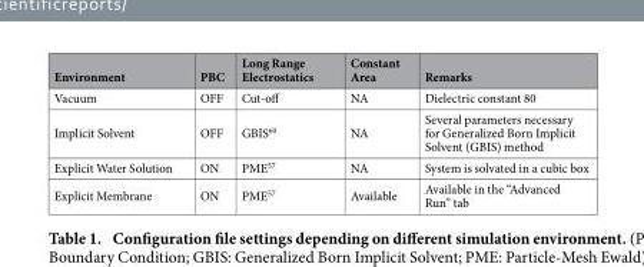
<table><thead><tr><td>Environment</td><td>PBC</td><td>Long Range Electrostatics</td><td>Constant Area</td><td>Remarks</td></tr></thead><tbody><tr><td>Vacuum</td><td>OFF</td><td>Cut-off</td><td>NA</td><td>Dielectric constant 80</td></tr><tr><td>Implicit Solvent</td><td>OFF</td><td>GBIS<sup>60</sup></td><td>NA</td><td>Several parameters necessary for Generalized Born Implicit Solvent (GBIS) method</td></tr><tr><td>Explicit Water Solution</td><td>ON</td><td>PME<sup>57</sup></td><td>NA</td><td>System is solvated in a cubic box</td></tr><tr><td>Explicit Membrane</td><td>ON</td><td>PME<sup>57</sup></td><td>Available</td><td>Available in the “Advanced Run” tab</td></tr></tbody></table>